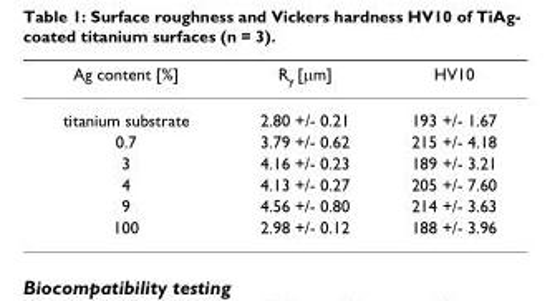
<table><thead><tr><td>Ag content [%]</td><td>R<sub>y</sub> [µm]</td><td>HV10</td></tr></thead><tbody><tr><td>titanium substrate</td><td>2.80 +/- 0.21</td><td>193 +/- 1.67</td></tr><tr><td>0.7</td><td>3.79 +/- 0.62</td><td>215 +/- 4.18</td></tr><tr><td>3</td><td>4.16 +/- 0.23</td><td>189 +/- 3.21</td></tr><tr><td>4</td><td>4.13 +/- 0.27</td><td>205 +/- 7.60</td></tr><tr><td>9</td><td>4.56 +/- 0.80</td><td>214 +/- 3.63</td></tr><tr><td>100</td><td>2.98 +/- 0.12</td><td>188 +/- 3.96</td></tr></tbody></table>